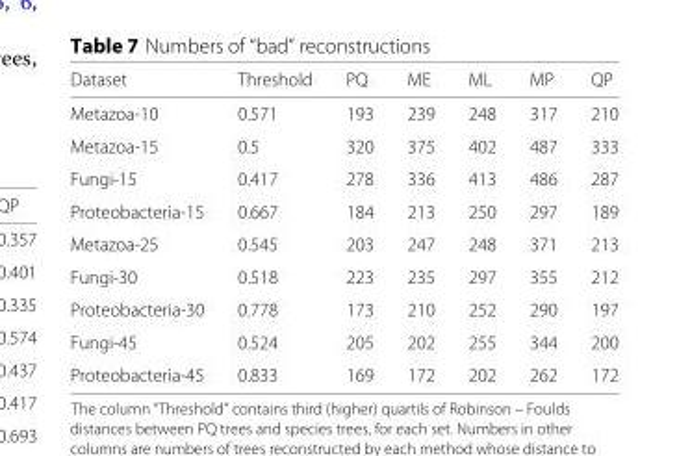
<table><thead><tr><td>Dataset</td><td>Threshold</td><td>PQ</td><td>ME</td><td>ML</td><td>MP</td><td>QP</td></tr></thead><tbody><tr><td>Metazoa-10</td><td>0.571</td><td>193</td><td>239</td><td>248</td><td>317</td><td>210</td></tr><tr><td>Metazoa-15</td><td>0.5</td><td>320</td><td>375</td><td>402</td><td>487</td><td>333</td></tr><tr><td>Fungi-15</td><td>0.417</td><td>278</td><td>336</td><td>413</td><td>486</td><td>287</td></tr><tr><td>Proteobacteria-15</td><td>0.667</td><td>184</td><td>213</td><td>250</td><td>297</td><td>189</td></tr><tr><td>Metazoa-25</td><td>0.545</td><td>203</td><td>247</td><td>248</td><td>371</td><td>213</td></tr><tr><td>Fungi-30</td><td>0.518</td><td>223</td><td>235</td><td>297</td><td>355</td><td>212</td></tr><tr><td>Proteobacteria-30</td><td>0.778</td><td>173</td><td>210</td><td>252</td><td>290</td><td>197</td></tr><tr><td>Fungi-45</td><td>0.524</td><td>205</td><td>202</td><td>255</td><td>344</td><td>200</td></tr><tr><td>Proteobacteria-45</td><td>0.833</td><td>169</td><td>172</td><td>202</td><td>262</td><td>172</td></tr></tbody></table>